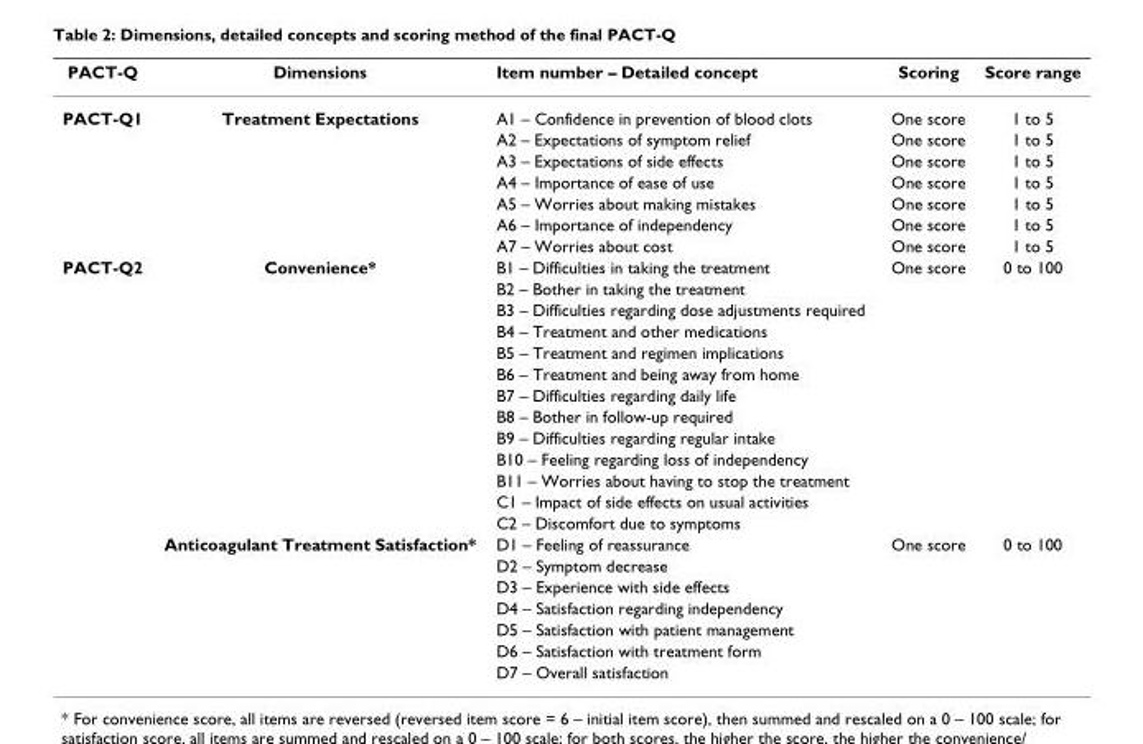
<table><thead><tr><td>PACT-Q</td><td>Dimensions</td><td>Item number – Detailed concept</td><td>Scoring</td><td>Score range</td></tr></thead><tbody><tr><td rowspan="7">PACT-Q1</td><td>Treatment Expectations</td><td>A1 – Confidence in prevention of blood clots</td><td>One score</td><td>1 to 5</td></tr><tr><td></td><td>A2 – Expectations of symptom relief</td><td>One score</td><td>1 to 5</td></tr><tr><td></td><td>A3 – Expectations of side effects</td><td>One score</td><td>1 to 5</td></tr><tr><td></td><td>A4 – Importance of ease of use</td><td>One score</td><td>1 to 5</td></tr><tr><td></td><td>A5 – Worries about making mistakes</td><td>One score</td><td>1 to 5</td></tr><tr><td></td><td>A6 – Importance of independency</td><td>One score</td><td>1 to 5</td></tr><tr><td></td><td>A7 – Worries about cost</td><td>One score</td><td>1 to 5</td></tr><tr><td rowspan="20">PACT-Q2</td><td>Convenience*</td><td>B1 – Difficulties in taking the treatment</td><td>One score</td><td>0 to 100</td></tr><tr><td></td><td>B2 – Bother in taking the treatment</td><td></td><td></td></tr><tr><td></td><td>B3 – Difficulties regarding dose adjustments required</td><td></td><td></td></tr><tr><td></td><td>B4 – Treatment and other medications</td><td></td><td></td></tr><tr><td></td><td>B5 – Treatment and regimen implications</td><td></td><td></td></tr><tr><td></td><td>B6 – Treatment and being away from home</td><td></td><td></td></tr><tr><td></td><td>B7 – Difficulties regarding daily life</td><td></td><td></td></tr><tr><td></td><td>B8 – Bother in follow-up required</td><td></td><td></td></tr><tr><td></td><td>B9 – Difficulties regarding regular intake</td><td></td><td></td></tr><tr><td></td><td>B10 – Feeling regarding loss of independency</td><td></td><td></td></tr><tr><td></td><td>B11 – Worries about having to stop the treatment</td><td></td><td></td></tr><tr><td></td><td>C1 – Impact of side effects on usual activities</td><td></td><td></td></tr><tr><td></td><td>C2 – Discomfort due to symptoms</td><td></td><td></td></tr><tr><td>Anticoagulant Treatment Satisfaction*</td><td>D1 – Feeling of reassurance</td><td>One score</td><td>0 to 100</td></tr><tr><td></td><td>D2 – Symptom decrease</td><td></td><td></td></tr><tr><td></td><td>D3 – Experience with side effects</td><td></td><td></td></tr><tr><td></td><td>D4 – Satisfaction regarding independency</td><td></td><td></td></tr><tr><td></td><td>D5 – Satisfaction with patient management</td><td></td><td></td></tr><tr><td></td><td>D6 – Satisfaction with treatment form</td><td></td><td></td></tr><tr><td></td><td>D7 – Overall satisfaction</td><td></td><td></td></tr></tbody></table>